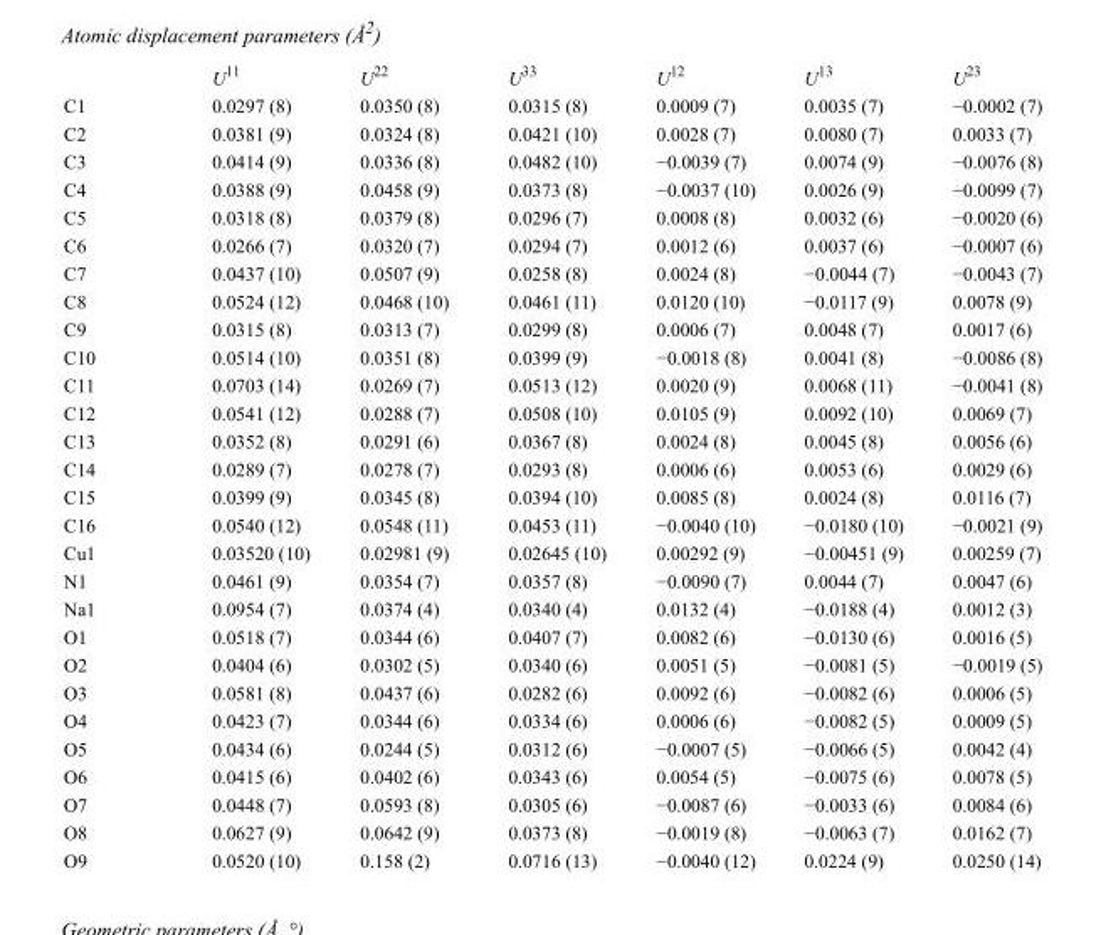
<table><thead><tr><td></td><td>U<sup>11</sup></td><td>U<sup>22</sup></td><td>U<sup>33</sup></td><td>U<sup>12</sup></td><td>U<sup>13</sup></td><td>U<sup>23</sup></td></tr></thead><tbody><tr><td>C1</td><td>0.0297 (8)</td><td>0.0350 (8)</td><td>0.0315 (8)</td><td>0.0009 (7)</td><td>0.0035 (7)</td><td>−0.0002 (7)</td></tr><tr><td>C2</td><td>0.0381 (9)</td><td>0.0324 (8)</td><td>0.0421 (10)</td><td>0.0028 (7)</td><td>0.0080 (7)</td><td>0.0033 (7)</td></tr><tr><td>C3</td><td>0.0414 (9)</td><td>0.0336 (8)</td><td>0.0482 (10)</td><td>−0.0039 (7)</td><td>0.0074 (9)</td><td>−0.0076 (8)</td></tr><tr><td>C4</td><td>0.0388 (9)</td><td>0.0458 (9)</td><td>0.0373 (8)</td><td>−0.0037 (10)</td><td>0.0026 (9)</td><td>−0.0099 (7)</td></tr><tr><td>C5</td><td>0.0318 (8)</td><td>0.0379 (8)</td><td>0.0296 (7)</td><td>0.0008 (8)</td><td>0.0032 (6)</td><td>−0.0020 (6)</td></tr><tr><td>C6</td><td>0.0266 (7)</td><td>0.0320 (7)</td><td>0.0294 (7)</td><td>0.0012 (6)</td><td>0.0037 (6)</td><td>−0.0007 (6)</td></tr><tr><td>C7</td><td>0.0437 (10)</td><td>0.0507 (9)</td><td>0.0258 (8)</td><td>0.0024 (8)</td><td>−0.0044 (7)</td><td>−0.0043 (7)</td></tr><tr><td>C8</td><td>0.0524 (12)</td><td>0.0468 (10)</td><td>0.0461 (11)</td><td>0.0120 (10)</td><td>−0.0117 (9)</td><td>0.0078 (9)</td></tr><tr><td>C9</td><td>0.0315 (8)</td><td>0.0313 (7)</td><td>0.0299 (8)</td><td>0.0006 (7)</td><td>0.0048 (7)</td><td>0.0017 (6)</td></tr><tr><td>C10</td><td>0.0514 (10)</td><td>0.0351 (8)</td><td>0.0399 (9)</td><td>−0.0018 (8)</td><td>0.0041 (8)</td><td>−0.0086 (8)</td></tr><tr><td>C11</td><td>0.0703 (14)</td><td>0.0269 (7)</td><td>0.0513 (12)</td><td>0.0020 (9)</td><td>0.0068 (11)</td><td>−0.0041 (8)</td></tr><tr><td>C12</td><td>0.0541 (12)</td><td>0.0288 (7)</td><td>0.0508 (10)</td><td>0.0105 (9)</td><td>0.0092 (10)</td><td>0.0069 (7)</td></tr><tr><td>C13</td><td>0.0352 (8)</td><td>0.0291 (6)</td><td>0.0367 (8)</td><td>0.0024 (8)</td><td>0.0045 (8)</td><td>0.0056 (6)</td></tr><tr><td>C14</td><td>0.0289 (7)</td><td>0.0278 (7)</td><td>0.0293 (8)</td><td>0.0006 (6)</td><td>0.0053 (6)</td><td>0.0029 (6)</td></tr><tr><td>C15</td><td>0.0399 (9)</td><td>0.0345 (8)</td><td>0.0394 (10)</td><td>0.0085 (8)</td><td>0.0024 (8)</td><td>0.0116 (7)</td></tr><tr><td>C16</td><td>0.0540 (12)</td><td>0.0548 (11)</td><td>0.0453 (11)</td><td>−0.0040 (10)</td><td>−0.0180 (10)</td><td>−0.0021 (9)</td></tr><tr><td>Cu1</td><td>0.03520 (10)</td><td>0.02981 (9)</td><td>0.02645 (10)</td><td>0.00292 (9)</td><td>−0.00451 (9)</td><td>0.00259 (7)</td></tr><tr><td>N1</td><td>0.0461 (9)</td><td>0.0354 (7)</td><td>0.0357 (8)</td><td>−0.0090 (7)</td><td>0.0044 (7)</td><td>0.0047 (6)</td></tr><tr><td>Na1</td><td>0.0954 (7)</td><td>0.0374 (4)</td><td>0.0340 (4)</td><td>0.0132 (4)</td><td>−0.0188 (4)</td><td>0.0012 (3)</td></tr><tr><td>O1</td><td>0.0518 (7)</td><td>0.0344 (6)</td><td>0.0407 (7)</td><td>0.0082 (6)</td><td>−0.0130 (6)</td><td>0.0016 (5)</td></tr><tr><td>O2</td><td>0.0404 (6)</td><td>0.0302 (5)</td><td>0.0340 (6)</td><td>0.0051 (5)</td><td>−0.0081 (5)</td><td>−0.0019 (5)</td></tr><tr><td>O3</td><td>0.0581 (8)</td><td>0.0437 (6)</td><td>0.0282 (6)</td><td>0.0092 (6)</td><td>−0.0082 (6)</td><td>0.0006 (5)</td></tr><tr><td>O4</td><td>0.0423 (7)</td><td>0.0344 (6)</td><td>0.0334 (6)</td><td>0.0006 (6)</td><td>−0.0082 (5)</td><td>0.0009 (5)</td></tr><tr><td>O5</td><td>0.0434 (6)</td><td>0.0244 (5)</td><td>0.0312 (6)</td><td>−0.0007 (5)</td><td>−0.0066 (5)</td><td>0.0042 (4)</td></tr><tr><td>O6</td><td>0.0415 (6)</td><td>0.0402 (6)</td><td>0.0343 (6)</td><td>0.0054 (5)</td><td>−0.0075 (6)</td><td>0.0078 (5)</td></tr><tr><td>O7</td><td>0.0448 (7)</td><td>0.0593 (8)</td><td>0.0305 (6)</td><td>−0.0087 (6)</td><td>−0.0033 (6)</td><td>0.0084 (6)</td></tr><tr><td>O8</td><td>0.0627 (9)</td><td>0.0642 (9)</td><td>0.0373 (8)</td><td>−0.0019 (8)</td><td>−0.0063 (7)</td><td>0.0162 (7)</td></tr><tr><td>O9</td><td>0.0520 (10)</td><td>0.158 (2)</td><td>0.0716 (13)</td><td>−0.0040 (12)</td><td>0.0224 (9)</td><td>0.0250 (14)</td></tr></tbody></table>